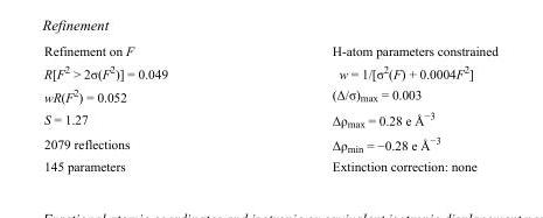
<table><tbody><tr><td>Refinement on F</td><td>H-atom parameters constrained</td></tr><tr><td>R[F<sup>2</sup> &gt; 2σ(F<sup>2</sup>)] = 0.049</td><td>w = 1/[σ<sup>2</sup>(F) + 0.0004F<sup>2</sup>]</td></tr><tr><td>wR(F<sup>2</sup>) = 0.052</td><td>(Δ/σ)<sub>max</sub> = 0.003</td></tr><tr><td>S = 1.27</td><td>Δρ<sub>max</sub> = 0.28 e Å<sup>−3</sup></td></tr><tr><td>2079 reflections</td><td>Δρ<sub>min</sub> = −0.28 e Å<sup>−3</sup></td></tr><tr><td>145 parameters</td><td>Extinction correction: none</td></tr></tbody></table>